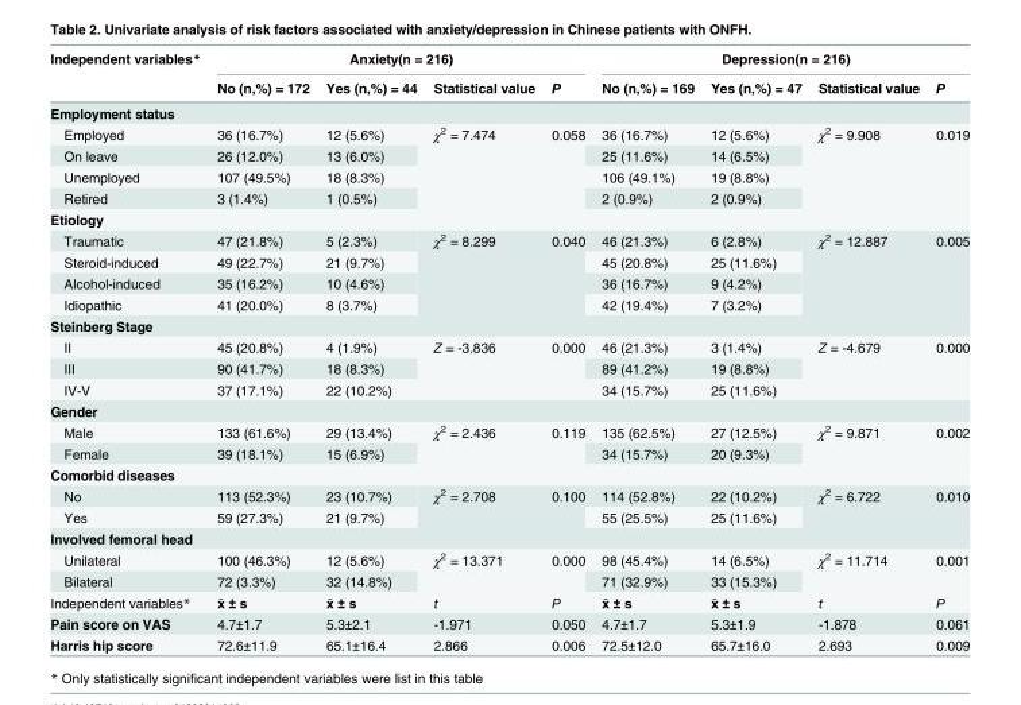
<table><thead><tr><td rowspan="2">Independent variables*</td><td colspan="4">Anxiety(n = 216)</td><td colspan="4">Depression(n = 216)</td></tr><tr><td>No (n,%) = 172</td><td>Yes (n,%) = 44</td><td>Statistical value</td><td>P</td><td>No (n,%) = 169</td><td>Yes (n,%) = 47</td><td>Statistical value</td><td>P</td></tr></thead><tbody><tr><td colspan="9">Employment status</td></tr><tr><td>Employed</td><td>36 (16.7%)</td><td>12 (5.6%)</td><td rowspan="4">χ<sup>2</sup> = 7.474</td><td rowspan="4">0.058</td><td>36 (16.7%)</td><td>12 (5.6%)</td><td rowspan="4">χ<sup>2</sup> = 9.908</td><td rowspan="4">0.019</td></tr><tr><td>On leave</td><td>26 (12.0%)</td><td>13 (6.0%)</td><td>25 (11.6%)</td><td>14 (6.5%)</td></tr><tr><td>Unemployed</td><td>107 (49.5%)</td><td>18 (8.3%)</td><td>106 (49.1%)</td><td>19 (8.8%)</td></tr><tr><td>Retired</td><td>3 (1.4%)</td><td>1 (0.5%)</td><td>2 (0.9%)</td><td>2 (0.9%)</td></tr><tr><td colspan="9">Etiology</td></tr><tr><td>Traumatic</td><td>47 (21.8%)</td><td>5 (2.3%)</td><td rowspan="4">χ<sup>2</sup> = 8.299</td><td rowspan="4">0.040</td><td>46 (21.3%)</td><td>6 (2.8%)</td><td rowspan="4">χ<sup>2</sup> = 12.887</td><td rowspan="4">0.005</td></tr><tr><td>Steroid-induced</td><td>49 (22.7%)</td><td>21 (9.7%)</td><td>45 (20.8%)</td><td>25 (11.6%)</td></tr><tr><td>Alcohol-induced</td><td>35 (16.2%)</td><td>10 (4.6%)</td><td>36 (16.7%)</td><td>9 (4.2%)</td></tr><tr><td>Idiopathic</td><td>41 (20.0%)</td><td>8 (3.7%)</td><td>42 (19.4%)</td><td>7 (3.2%)</td></tr><tr><td colspan="9">Steinberg Stage</td></tr><tr><td>II</td><td>45 (20.8%)</td><td>4 (1.9%)</td><td rowspan="3">Z = -3.836</td><td rowspan="3">0.000</td><td>46 (21.3%)</td><td>3 (1.4%)</td><td rowspan="3">Z = -4.679</td><td rowspan="3">0.000</td></tr><tr><td>III</td><td>90 (41.7%)</td><td>18 (8.3%)</td><td>89 (41.2%)</td><td>19 (8.8%)</td></tr><tr><td>IV-V</td><td>37 (17.1%)</td><td>22 (10.2%)</td><td>34 (15.7%)</td><td>25 (11.6%)</td></tr><tr><td colspan="9">Gender</td></tr><tr><td>Male</td><td>133 (61.6%)</td><td>29 (13.4%)</td><td rowspan="2">χ<sup>2</sup> = 2.436</td><td rowspan="2">0.119</td><td>135 (62.5%)</td><td>27 (12.5%)</td><td rowspan="2">χ<sup>2</sup> = 9.871</td><td rowspan="2">0.002</td></tr><tr><td>Female</td><td>39 (18.1%)</td><td>15 (6.9%)</td><td>34 (15.7%)</td><td>20 (9.3%)</td></tr><tr><td colspan="9">Comorbid diseases</td></tr><tr><td>No</td><td>113 (52.3%)</td><td>23 (10.7%)</td><td rowspan="2">χ<sup>2</sup> = 2.708</td><td rowspan="2">0.100</td><td>114 (52.8%)</td><td>22 (10.2%)</td><td rowspan="2">χ<sup>2</sup> = 6.722</td><td rowspan="2">0.010</td></tr><tr><td>Yes</td><td>59 (27.3%)</td><td>21 (9.7%)</td><td>55 (25.5%)</td><td>25 (11.6%)</td></tr><tr><td colspan="9">Involved femoral head</td></tr><tr><td>Unilateral</td><td>100 (46.3%)</td><td>12 (5.6%)</td><td rowspan="2">χ<sup>2</sup> = 13.371</td><td rowspan="2">0.000</td><td>98 (45.4%)</td><td>14 (6.5%)</td><td rowspan="2">χ<sup>2</sup> = 11.714</td><td rowspan="2">0.001</td></tr><tr><td>Bilateral</td><td>72 (3.3%)</td><td>32 (14.8%)</td><td>71 (32.9%)</td><td>33 (15.3%)</td></tr><tr><td>Independent variables*</td><td>x̄ ± s</td><td>x̄ ± s</td><td>t</td><td>P</td><td>x̄ ± s</td><td>x̄ ± s</td><td>t</td><td>P</td></tr><tr><td>Pain score on VAS</td><td>4.7±1.7</td><td>5.3±2.1</td><td>-1.971</td><td>0.050</td><td>4.7±1.7</td><td>5.3±1.9</td><td>-1.878</td><td>0.061</td></tr><tr><td>Harris hip score</td><td>72.6±11.9</td><td>65.1±16.4</td><td>2.866</td><td>0.006</td><td>72.5±12.0</td><td>65.7±16.0</td><td>2.693</td><td>0.009</td></tr></tbody></table>